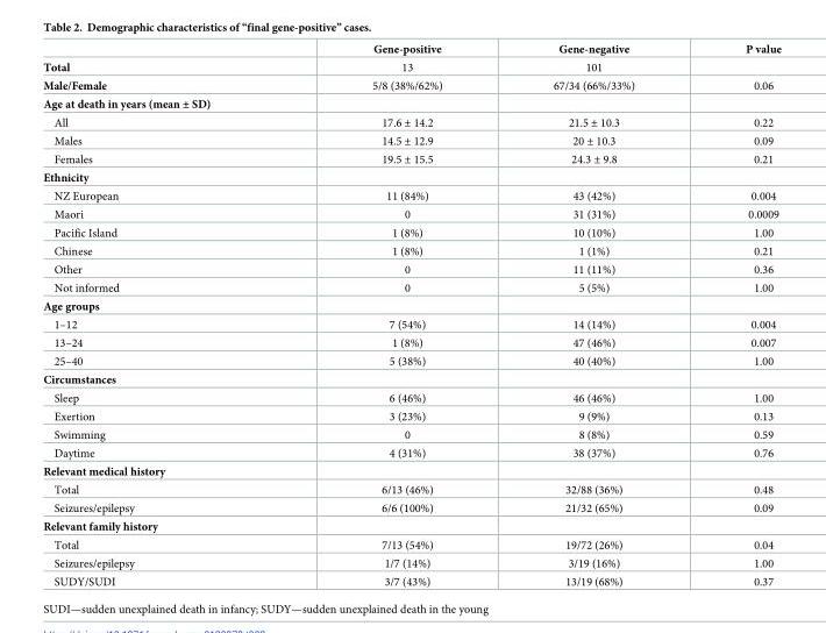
<table><thead><tr><td></td><td>Gene-positive</td><td>Gene-negative</td><td>P value</td></tr></thead><tbody><tr><td>Total</td><td>13</td><td>101</td><td></td></tr><tr><td>Male/Female</td><td>5/8 (38%/62%)</td><td>67/34 (66%/33%)</td><td>0.06</td></tr><tr><td colspan="4">Age at death in years (mean ± SD)</td></tr><tr><td>All</td><td>17.6 ± 14.2</td><td>21.5 ± 10.3</td><td>0.22</td></tr><tr><td>Males</td><td>14.5 ± 12.9</td><td>20 ± 10.3</td><td>0.09</td></tr><tr><td>Females</td><td>19.5 ± 15.5</td><td>24.3 ± 9.8</td><td>0.21</td></tr><tr><td colspan="4">Ethnicity</td></tr><tr><td>NZ European</td><td>11 (84%)</td><td>43 (42%)</td><td>0.004</td></tr><tr><td>Maori</td><td>0</td><td>31 (31%)</td><td>0.0009</td></tr><tr><td>Pacific Island</td><td>1 (8%)</td><td>10 (10%)</td><td>1.00</td></tr><tr><td>Chinese</td><td>1 (8%)</td><td>1 (1%)</td><td>0.21</td></tr><tr><td>Other</td><td>0</td><td>11 (11%)</td><td>0.36</td></tr><tr><td>Not informed</td><td>0</td><td>5 (5%)</td><td>1.00</td></tr><tr><td colspan="4">Age groups</td></tr><tr><td>1–12</td><td>7 (54%)</td><td>14 (14%)</td><td>0.004</td></tr><tr><td>13–24</td><td>1 (8%)</td><td>47 (46%)</td><td>0.007</td></tr><tr><td>25–40</td><td>5 (38%)</td><td>40 (40%)</td><td>1.00</td></tr><tr><td colspan="4">Circumstances</td></tr><tr><td>Sleep</td><td>6 (46%)</td><td>46 (46%)</td><td>1.00</td></tr><tr><td>Exertion</td><td>3 (23%)</td><td>9 (9%)</td><td>0.13</td></tr><tr><td>Swimming</td><td>0</td><td>8 (8%)</td><td>0.59</td></tr><tr><td>Daytime</td><td>4 (31%)</td><td>38 (37%)</td><td>0.76</td></tr><tr><td colspan="4">Relevant medical history</td></tr><tr><td>Total</td><td>6/13 (46%)</td><td>32/88 (36%)</td><td>0.48</td></tr><tr><td>Seizures/epilepsy</td><td>6/6 (100%)</td><td>21/32 (65%)</td><td>0.09</td></tr><tr><td colspan="4">Relevant family history</td></tr><tr><td>Total</td><td>7/13 (54%)</td><td>19/72 (26%)</td><td>0.04</td></tr><tr><td>Seizures/epilepsy</td><td>1/7 (14%)</td><td>3/19 (16%)</td><td>1.00</td></tr><tr><td>SUDY/SUDI</td><td>3/7 (43%)</td><td>13/19 (68%)</td><td>0.37</td></tr></tbody></table>